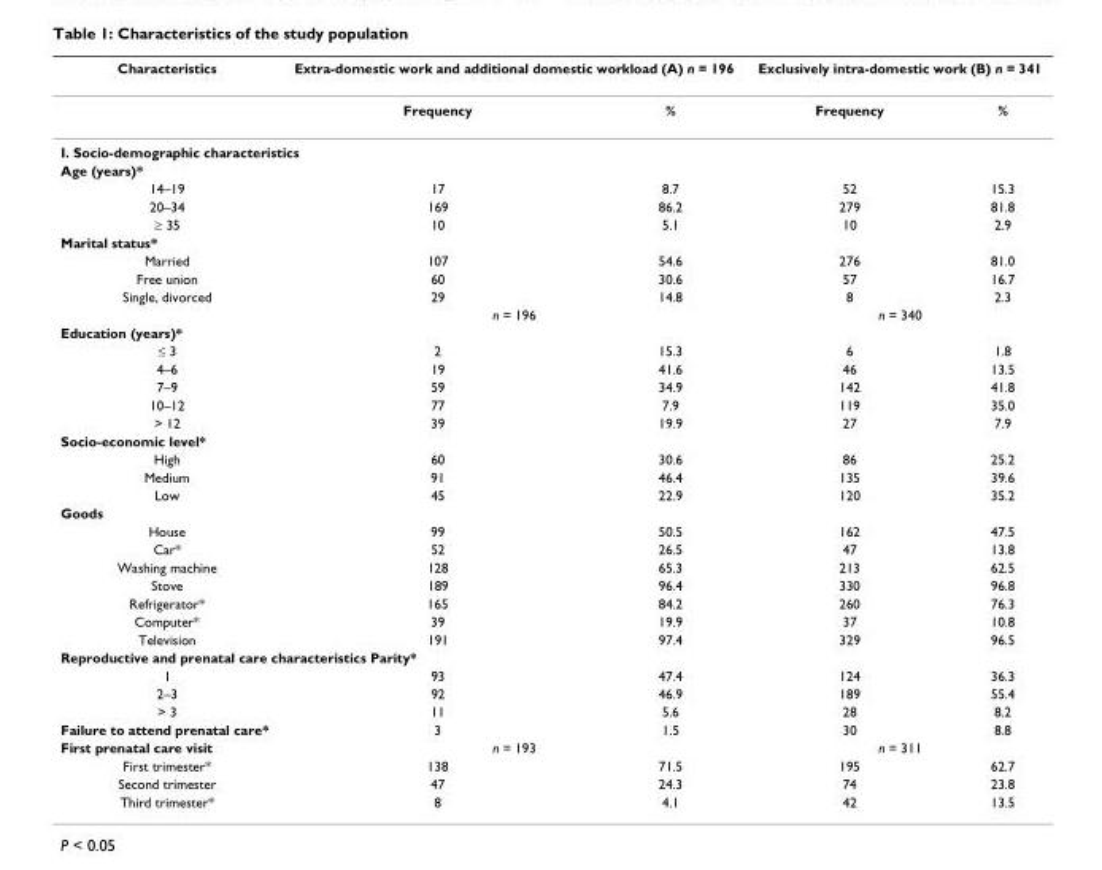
<table><thead><tr><td rowspan="2">Characteristics</td><td colspan="2">Extra-domestic work and additional domestic workload (A) n = 196</td><td colspan="2">Exclusively intra-domestic work (B) n = 341</td></tr><tr><td>Frequency</td><td>%</td><td>Frequency</td><td>%</td></tr></thead><tbody><tr><td colspan="5">I. Socio-demographic characteristics</td></tr><tr><td colspan="5">Age (years)*</td></tr><tr><td>14–19</td><td>17</td><td>8.7</td><td>52</td><td>15.3</td></tr><tr><td>20–34</td><td>169</td><td>86.2</td><td>279</td><td>81.8</td></tr><tr><td>≥ 35</td><td>10</td><td>5.1</td><td>10</td><td>2.9</td></tr><tr><td colspan="5">Marital status*</td></tr><tr><td>Married</td><td>107</td><td>54.6</td><td>276</td><td>81.0</td></tr><tr><td>Free union</td><td>60</td><td>30.6</td><td>57</td><td>16.7</td></tr><tr><td rowspan="2">Single, divorced</td><td>29</td><td>14.8</td><td>8</td><td>2.3</td></tr><tr><td colspan="2">n = 196</td><td colspan="2">n = 340</td></tr><tr><td colspan="5">Education (years)*</td></tr><tr><td>≤ 3</td><td>2</td><td>15.3</td><td>6</td><td>1.8</td></tr><tr><td>4–6</td><td>19</td><td>41.6</td><td>46</td><td>13.5</td></tr><tr><td>7–9</td><td>59</td><td>34.9</td><td>142</td><td>41.8</td></tr><tr><td>10–12</td><td>77</td><td>7.9</td><td>119</td><td>35.0</td></tr><tr><td>&gt; 12</td><td>39</td><td>19.9</td><td>27</td><td>7.9</td></tr><tr><td colspan="5">Socio-economic level*</td></tr><tr><td>High</td><td>60</td><td>30.6</td><td>86</td><td>25.2</td></tr><tr><td>Medium</td><td>91</td><td>46.4</td><td>135</td><td>39.6</td></tr><tr><td>Low</td><td>45</td><td>22.9</td><td>120</td><td>35.2</td></tr><tr><td colspan="5">Goods</td></tr><tr><td>House</td><td>99</td><td>50.5</td><td>162</td><td>47.5</td></tr><tr><td>Car*</td><td>52</td><td>26.5</td><td>47</td><td>13.8</td></tr><tr><td>Washing machine</td><td>128</td><td>65.3</td><td>213</td><td>62.5</td></tr><tr><td>Stove</td><td>189</td><td>96.4</td><td>330</td><td>96.8</td></tr><tr><td>Refrigerator*</td><td>165</td><td>84.2</td><td>260</td><td>76.3</td></tr><tr><td>Computer*</td><td>39</td><td>19.9</td><td>37</td><td>10.8</td></tr><tr><td>Television</td><td>191</td><td>97.4</td><td>329</td><td>96.5</td></tr><tr><td colspan="5">Reproductive and prenatal care characteristics Parity*</td></tr><tr><td>1</td><td>93</td><td>47.4</td><td>124</td><td>36.3</td></tr><tr><td>2–3</td><td>92</td><td>46.9</td><td>189</td><td>55.4</td></tr><tr><td>&gt; 3</td><td>11</td><td>5.6</td><td>28</td><td>8.2</td></tr><tr><td>Failure to attend prenatal care*</td><td>3</td><td>1.5</td><td>30</td><td>8.8</td></tr><tr><td>First prenatal care visit</td><td colspan="2">n = 193</td><td colspan="2">n = 311</td></tr><tr><td>First trimester*</td><td>138</td><td>71.5</td><td>195</td><td>62.7</td></tr><tr><td>Second trimester</td><td>47</td><td>24.3</td><td>74</td><td>23.8</td></tr><tr><td>Third trimester*</td><td>8</td><td>4.1</td><td>42</td><td>13.5</td></tr></tbody></table>